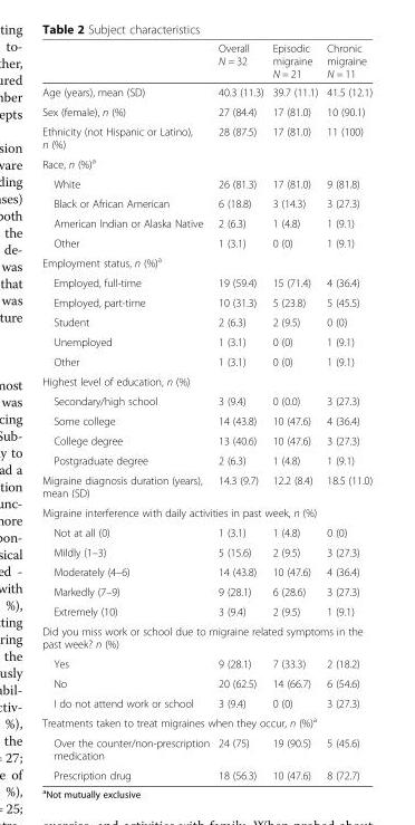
<table><thead><tr><td></td><td>Overall N = 32</td><td>Episodic migraine N = 21</td><td>Chronic migraine N = 11</td></tr></thead><tbody><tr><td>Age (years), mean (SD)</td><td>40.3 (11.3)</td><td>39.7 (11.1)</td><td>41.5 (12.1)</td></tr><tr><td>Sex (female), n (%)</td><td>27 (84.4)</td><td>17 (81.0)</td><td>10 (90.1)</td></tr><tr><td>Ethnicity (not Hispanic or Latino), n (%)</td><td>28 (87.5)</td><td>17 (81.0)</td><td>11 (100)</td></tr><tr><td colspan="4">Race, n (%)<sup>a</sup></td></tr><tr><td>White</td><td>26 (81.3)</td><td>17 (81.0)</td><td>9 (81.8)</td></tr><tr><td>Black or African American</td><td>6 (18.8)</td><td>3 (14.3)</td><td>3 (27.3)</td></tr><tr><td>American Indian or Alaska Native</td><td>2 (6.3)</td><td>1 (4.8)</td><td>1 (9.1)</td></tr><tr><td>Other</td><td>1 (3.1)</td><td>0 (0)</td><td>1 (9.1)</td></tr><tr><td colspan="4">Employment status, n (%)<sup>a</sup></td></tr><tr><td>Employed, full-time</td><td>19 (59.4)</td><td>15 (71.4)</td><td>4 (36.4)</td></tr><tr><td>Employed, part-time</td><td>10 (31.3)</td><td>5 (23.8)</td><td>5 (45.5)</td></tr><tr><td>Student</td><td>2 (6.3)</td><td>2 (9.5)</td><td>0 (0)</td></tr><tr><td>Unemployed</td><td>1 (3.1)</td><td>0 (0)</td><td>1 (9.1)</td></tr><tr><td>Other</td><td>1 (3.1)</td><td>0 (0)</td><td>1 (9.1)</td></tr><tr><td colspan="4">Highest level of education, n (%)</td></tr><tr><td>Secondary/high school</td><td>3 (9.4)</td><td>0 (0.0)</td><td>3 (27.3)</td></tr><tr><td>Some college</td><td>14 (43.8)</td><td>10 (47.6)</td><td>4 (36.4)</td></tr><tr><td>College degree</td><td>13 (40.6)</td><td>10 (47.6)</td><td>3 (27.3)</td></tr><tr><td>Postgraduate degree</td><td>2 (6.3)</td><td>1 (4.8)</td><td>1 (9.1)</td></tr><tr><td>Migraine diagnosis duration (years), mean (SD)</td><td>14.3 (9.7)</td><td>12.2 (8.4)</td><td>18.5 (11.0)</td></tr><tr><td colspan="4">Migraine interference with daily activities in past week, n (%)</td></tr><tr><td>Not at all (0)</td><td>1 (3.1)</td><td>1 (4.8)</td><td>0 (0)</td></tr><tr><td>Mildly (1–3)</td><td>5 (15.6)</td><td>2 (9.5)</td><td>3 (27.3)</td></tr><tr><td>Moderately (4–6)</td><td>14 (43.8)</td><td>10 (47.6)</td><td>4 (36.4)</td></tr><tr><td>Markedly (7–9)</td><td>9 (28.1)</td><td>6 (28.6)</td><td>3 (27.3)</td></tr><tr><td>Extremely (10)</td><td>3 (9.4)</td><td>2 (9.5)</td><td>1 (9.1)</td></tr><tr><td colspan="4">Did you miss work or school due to migraine related symptoms in the past week? n (%)</td></tr><tr><td>Yes</td><td>9 (28.1)</td><td>7 (33.3)</td><td>2 (18.2)</td></tr><tr><td>No</td><td>20 (62.5)</td><td>14 (66.7)</td><td>6 (54.6)</td></tr><tr><td>I do not attend work or school</td><td>3 (9.4)</td><td>0 (0)</td><td>3 (27.3)</td></tr><tr><td colspan="4">Treatments taken to treat migraines when they occur, n (%)<sup>a</sup></td></tr><tr><td>Over the counter/non-prescription medication</td><td>24 (75)</td><td>19 (90.5)</td><td>5 (45.6)</td></tr><tr><td>Prescription drug</td><td>18 (56.3)</td><td>10 (47.6)</td><td>8 (72.7)</td></tr></tbody></table>